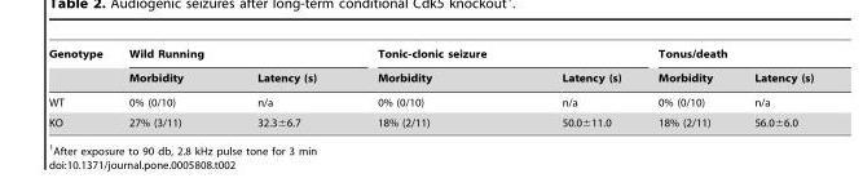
<table><thead><tr><td rowspan="2">Genotype</td><td colspan="2">Wild Running</td><td colspan="2">Tonic-clonic seizure</td><td colspan="2">Tonus/death</td></tr><tr><td>Morbidity</td><td>Latency (s)</td><td>Morbidity</td><td>Latency (s)</td><td>Morbidity</td><td>Latency (s)</td></tr></thead><tbody><tr><td>WT</td><td>0% (0/10)</td><td>n/a</td><td>0% (0/10)</td><td>n/a</td><td>0% (0/10)</td><td>n/a</td></tr><tr><td>KO</td><td>27% (3/11)</td><td>32.3±6.7</td><td>18% (2/11)</td><td>50.0±11.0</td><td>18% (2/11)</td><td>56.0±6.0</td></tr></tbody></table>